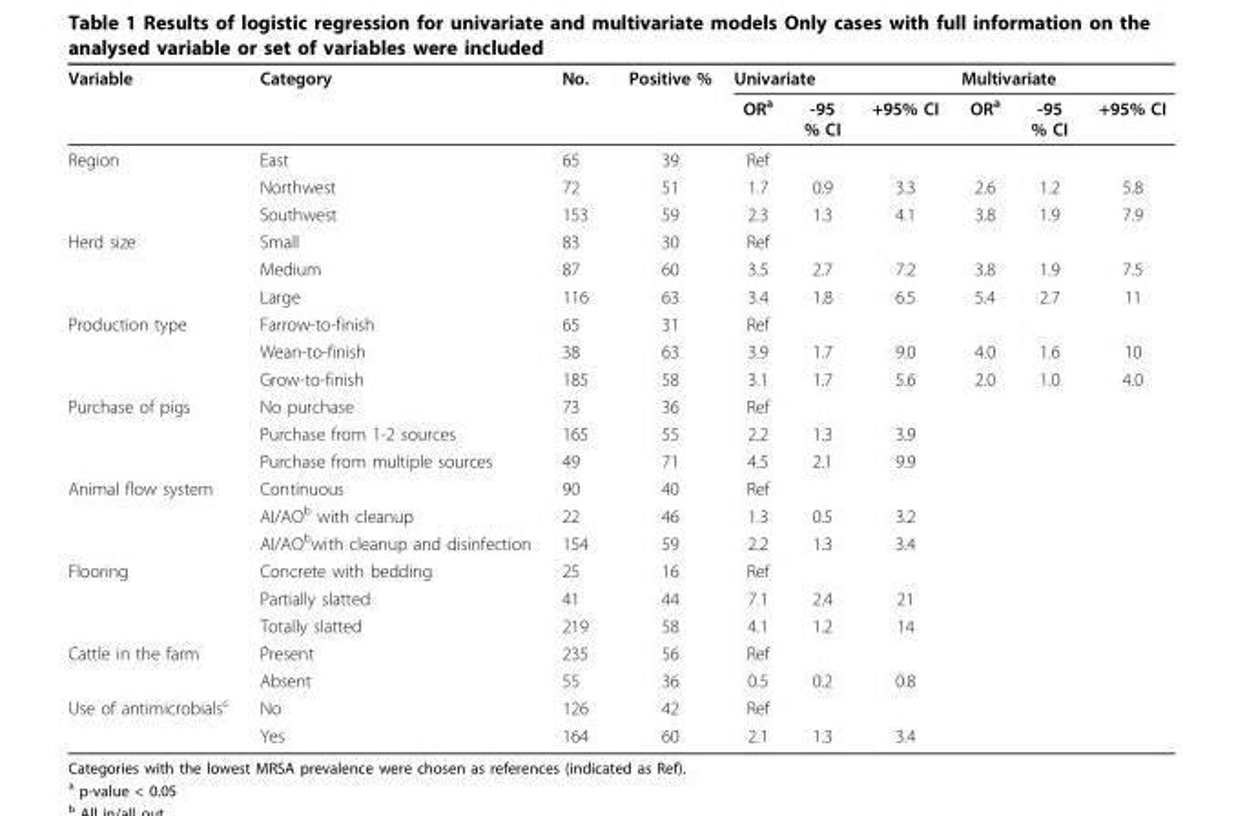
<table><thead><tr><td rowspan="2">Variable</td><td rowspan="2">Category</td><td rowspan="2">No.</td><td rowspan="2">Positive %</td><td colspan="3">Univariate</td><td colspan="3">Multivariate</td></tr><tr><td>OR<sup>a</sup></td><td>-95 % CI</td><td>+95% CI</td><td>OR<sup>a</sup></td><td>-95 % CI</td><td>+95% CI</td></tr></thead><tbody><tr><td rowspan="3">Region</td><td>East</td><td>65</td><td>39</td><td>Ref</td><td></td><td></td><td></td><td></td><td></td></tr><tr><td>Northwest</td><td>72</td><td>51</td><td>1.7</td><td>0.9</td><td>3.3</td><td>2.6</td><td>1.2</td><td>5.8</td></tr><tr><td>Southwest</td><td>153</td><td>59</td><td>2.3</td><td>1.3</td><td>4.1</td><td>3.8</td><td>1.9</td><td>7.9</td></tr><tr><td rowspan="3">Herd size</td><td>Small</td><td>83</td><td>30</td><td>Ref</td><td></td><td></td><td></td><td></td><td></td></tr><tr><td>Medium</td><td>87</td><td>60</td><td>3.5</td><td>2.7</td><td>7.2</td><td>3.8</td><td>1.9</td><td>7.5</td></tr><tr><td>Large</td><td>116</td><td>63</td><td>3.4</td><td>1.8</td><td>6.5</td><td>5.4</td><td>2.7</td><td>11</td></tr><tr><td rowspan="3">Production type</td><td>Farrow-to-finish</td><td>65</td><td>31</td><td>Ref</td><td></td><td></td><td></td><td></td><td></td></tr><tr><td>Wean-to-finish</td><td>38</td><td>63</td><td>3.9</td><td>1.7</td><td>9.0</td><td>4.0</td><td>1.6</td><td>10</td></tr><tr><td>Grow-to-finish</td><td>185</td><td>58</td><td>3.1</td><td>1.7</td><td>5.6</td><td>2.0</td><td>1.0</td><td>4.0</td></tr><tr><td rowspan="3">Purchase of pigs</td><td>No purchase</td><td>73</td><td>36</td><td>Ref</td><td></td><td></td><td></td><td></td><td></td></tr><tr><td>Purchase from 1-2 sources</td><td>165</td><td>55</td><td>2.2</td><td>1.3</td><td>3.9</td><td></td><td></td><td></td></tr><tr><td>Purchase from multiple sources</td><td>49</td><td>71</td><td>4.5</td><td>2.1</td><td>9.9</td><td></td><td></td><td></td></tr><tr><td rowspan="3">Animal flow system</td><td>Continuous</td><td>90</td><td>40</td><td>Ref</td><td></td><td></td><td></td><td></td><td></td></tr><tr><td>AI/AO<sup>b</sup> with cleanup</td><td>22</td><td>46</td><td>1.3</td><td>0.5</td><td>3.2</td><td></td><td></td><td></td></tr><tr><td>AI/AO<sup>b</sup>with cleanup and disinfection</td><td>154</td><td>59</td><td>2.2</td><td>1.3</td><td>3.4</td><td></td><td></td><td></td></tr><tr><td rowspan="3">Flooring</td><td>Concrete with bedding</td><td>25</td><td>16</td><td>Ref</td><td></td><td></td><td></td><td></td><td></td></tr><tr><td>Partially slatted</td><td>41</td><td>44</td><td>7.1</td><td>2.4</td><td>21</td><td></td><td></td><td></td></tr><tr><td>Totally slatted</td><td>219</td><td>58</td><td>4.1</td><td>1.2</td><td>14</td><td></td><td></td><td></td></tr><tr><td rowspan="2">Cattle in the farm</td><td>Present</td><td>235</td><td>56</td><td>Ref</td><td></td><td></td><td></td><td></td><td></td></tr><tr><td>Absent</td><td>55</td><td>36</td><td>0.5</td><td>0.2</td><td>0.8</td><td></td><td></td><td></td></tr><tr><td rowspan="2">Use of antimicrobials<sup>c</sup></td><td>No</td><td>126</td><td>42</td><td>Ref</td><td></td><td></td><td></td><td></td><td></td></tr><tr><td>Yes</td><td>164</td><td>60</td><td>2.1</td><td>1.3</td><td>3.4</td><td></td><td></td><td></td></tr></tbody></table>